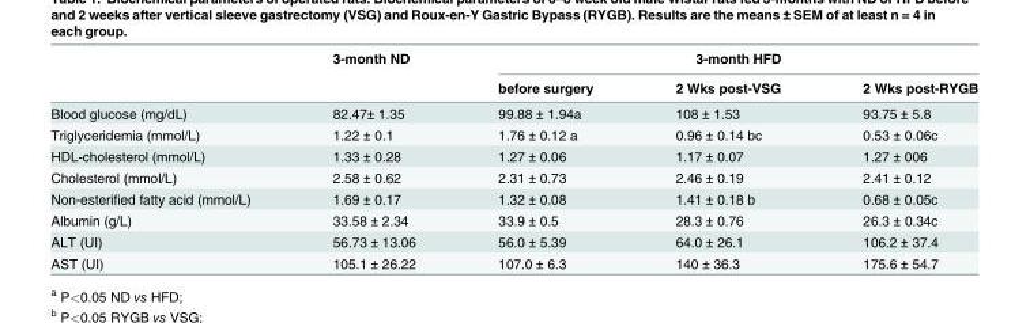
<table><thead><tr><td rowspan="2"></td><td rowspan="2">3-month ND</td><td colspan="3">3-month HFD</td></tr><tr><td>before surgery</td><td>2 Wks post-VSG</td><td>2 Wks post-RYGB</td></tr></thead><tbody><tr><td>Blood glucose (mg/dL)</td><td>82.47± 1.35</td><td>99.88 ± 1.94<sup>a</sup></td><td>108 ± 1.53</td><td>93.75 ± 5.8</td></tr><tr><td>Triglyceridemia (mmol/L)</td><td>1.22 ± 0.1</td><td>1.76 ± 0.12 <sup>a</sup></td><td>0.96 ± 0.14 <sup>bc</sup></td><td>0.53 ± 0.06<sup>c</sup></td></tr><tr><td>HDL-cholesterol (mmol/L)</td><td>1.33 ± 0.28</td><td>1.27 ± 0.06</td><td>1.17 ± 0.07</td><td>1.27 ± 006</td></tr><tr><td>Cholesterol (mmol/L)</td><td>2.58 ± 0.62</td><td>2.31 ± 0.73</td><td>2.46 ± 0.19</td><td>2.41 ± 0.12</td></tr><tr><td>Non-esterified fatty acid (mmol/L)</td><td>1.69 ± 0.17</td><td>1.32 ± 0.08</td><td>1.41 ± 0.18 <sup>b</sup></td><td>0.68 ± 0.05<sup>c</sup></td></tr><tr><td>Albumin (g/L)</td><td>33.58 ± 2.34</td><td>33.9 ± 0.5</td><td>28.3 ± 0.76</td><td>26.3 ± 0.34<sup>c</sup></td></tr><tr><td>ALT (UI)</td><td>56.73 ± 13.06</td><td>56.0 ± 5.39</td><td>64.0 ± 26.1</td><td>106.2 ± 37.4</td></tr><tr><td>AST (UI)</td><td>105.1 ± 26.22</td><td>107.0 ± 6.3</td><td>140 ± 36.3</td><td>175.6 ± 54.7</td></tr></tbody></table>